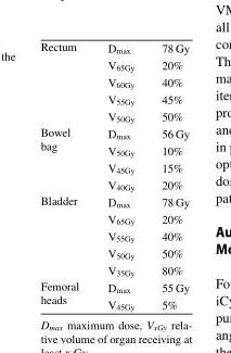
<table><tbody><tr><td rowspan="5">Rectum</td><td>D<sub>max</sub></td><td>78 Gy</td></tr><tr><td>V<sub>65Gy</sub></td><td>20%</td></tr><tr><td>V<sub>60Gy</sub></td><td>40%</td></tr><tr><td>V<sub>55Gy</sub></td><td>45%</td></tr><tr><td>V<sub>50Gy</sub></td><td>50%</td></tr><tr><td rowspan="4">Bowel bag</td><td>D<sub>max</sub></td><td>56 Gy</td></tr><tr><td>V<sub>50Gy</sub></td><td>10%</td></tr><tr><td>V<sub>45Gy</sub></td><td>15%</td></tr><tr><td>V<sub>40Gy</sub></td><td>20%</td></tr><tr><td rowspan="5">Bladder</td><td>D<sub>max</sub></td><td>78 Gy</td></tr><tr><td>V<sub>65Gy</sub></td><td>20%</td></tr><tr><td>V<sub>55Gy</sub></td><td>40%</td></tr><tr><td>V<sub>50Gy</sub></td><td>50%</td></tr><tr><td>V<sub>35Gy</sub></td><td>80%</td></tr><tr><td rowspan="2">Femoral heads</td><td>D<sub>max</sub></td><td>55 Gy</td></tr><tr><td>V<sub>45Gy</sub></td><td>5%</td></tr></tbody></table>